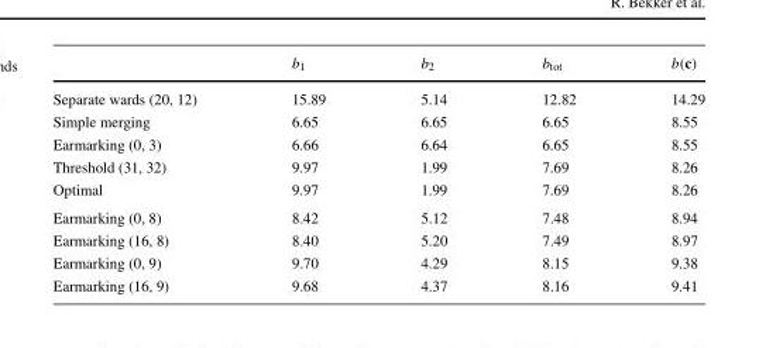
<table><thead><tr><td></td><td>b<sub>1</sub></td><td>b<sub>2</sub></td><td>b<sub>tot</sub></td><td>b(c)</td></tr></thead><tbody><tr><td>Separate wards (20, 12)</td><td>15.89</td><td>5.14</td><td>12.82</td><td>14.29</td></tr><tr><td>Simple merging</td><td>6.65</td><td>6.65</td><td>6.65</td><td>8.55</td></tr><tr><td>Earmarking (0, 3)</td><td>6.66</td><td>6.64</td><td>6.65</td><td>8.55</td></tr><tr><td>Threshold (31, 32)</td><td>9.97</td><td>1.99</td><td>7.69</td><td>8.26</td></tr><tr><td>Optimal</td><td>9.97</td><td>1.99</td><td>7.69</td><td>8.26</td></tr><tr><td>Earmarking (0, 8)</td><td>8.42</td><td>5.12</td><td>7.48</td><td>8.94</td></tr><tr><td>Earmarking (16, 8)</td><td>8.40</td><td>5.20</td><td>7.49</td><td>8.97</td></tr><tr><td>Earmarking (0, 9)</td><td>9.70</td><td>4.29</td><td>8.15</td><td>9.38</td></tr><tr><td>Earmarking (16, 9)</td><td>9.68</td><td>4.37</td><td>8.16</td><td>9.41</td></tr></tbody></table>